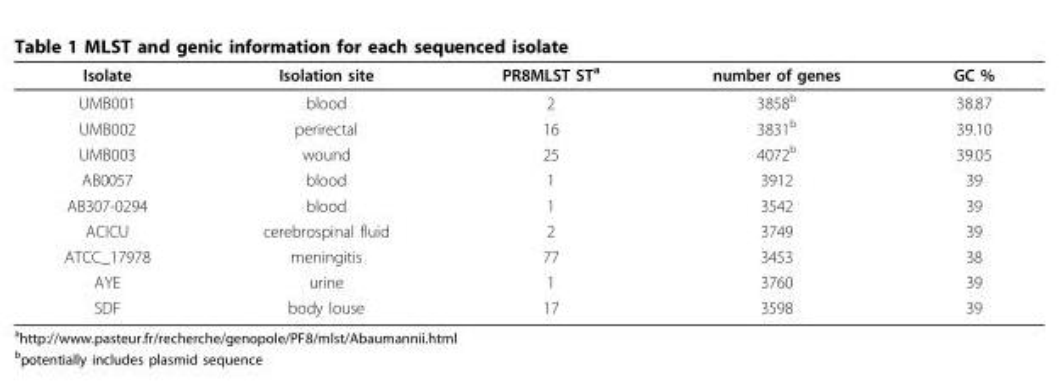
<table><thead><tr><td>Isolate</td><td>Isolation site</td><td>PR8MLST ST<sup>a</sup></td><td>number of genes</td><td>GC %</td></tr></thead><tbody><tr><td>UMB001</td><td>blood</td><td>2</td><td>3858<sup>b</sup></td><td>38.87</td></tr><tr><td>UMB002</td><td>perirectal</td><td>16</td><td>3831<sup>b</sup></td><td>39.10</td></tr><tr><td>UMB003</td><td>wound</td><td>25</td><td>4072<sup>b</sup></td><td>39.05</td></tr><tr><td>AB0057</td><td>blood</td><td>1</td><td>3912</td><td>39</td></tr><tr><td>AB307-0294</td><td>blood</td><td>1</td><td>3542</td><td>39</td></tr><tr><td>ACICU</td><td>cerebrospinal fluid</td><td>2</td><td>3749</td><td>39</td></tr><tr><td>ATCC_17978</td><td>meningitis</td><td>77</td><td>3453</td><td>38</td></tr><tr><td>AYE</td><td>urine</td><td>1</td><td>3760</td><td>39</td></tr><tr><td>SDF</td><td>body louse</td><td>17</td><td>3598</td><td>39</td></tr></tbody></table>